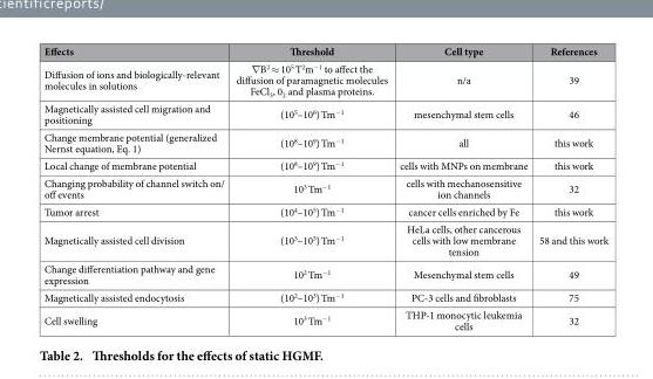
<table><thead><tr><td>Effects</td><td>Threshold</td><td>Cell type</td><td>References</td></tr></thead><tbody><tr><td>Diffusion of ions and biologically-relevant molecules in solutions</td><td>∇ B<sup>2</sup> ≈ 10<sup>5</sup> T<sup>2</sup>m<sup>−1</sup> to affect the diffusion of paramagnetic molecules FeCl<sub>3</sub>, 0<sub>2</sub> and plasma proteins.</td><td>n/a</td><td>39</td></tr><tr><td>Magnetically assisted cell migration and positioning</td><td>(10<sup>5</sup>–10<sup>6</sup>) Tm<sup>−1</sup></td><td>mesenchymal stem cells</td><td>46</td></tr><tr><td>Change membrane potential (generalized Nernst equation, Eq. 1)</td><td>(10<sup>8</sup>–10<sup>9</sup>) Tm<sup>−1</sup></td><td>all</td><td>this work</td></tr><tr><td>Local change of membrane potential</td><td>(10<sup>8</sup>–10<sup>9</sup>) Tm<sup>−1</sup></td><td>cells with MNPs on membrane</td><td>this work</td></tr><tr><td>Changing probability of channel switch on/ off events</td><td>10<sup>3</sup> Tm<sup>−1</sup></td><td>cells with mechanosensitive ion channels</td><td>32</td></tr><tr><td>Tumor arrest</td><td>(10<sup>4</sup>–10<sup>5</sup>) Tm<sup>−1</sup></td><td>cancer cells enriched by Fe</td><td>this work</td></tr><tr><td>Magnetically assisted cell division</td><td>(10<sup>3</sup>–10<sup>5</sup>) Tm<sup>−1</sup></td><td>HeLa cells, other cancerous cells with low membrane tension</td><td>58 and this work</td></tr><tr><td>Change differentiation pathway and gene expression</td><td>10<sup>2</sup> Tm<sup>−1</sup></td><td>Mesenchymal stem cells</td><td>49</td></tr><tr><td>Magnetically assisted endocytosis</td><td>(10<sup>2</sup>–10<sup>3</sup>) Tm<sup>−1</sup></td><td>PC-3 cells and fibroblasts</td><td>75</td></tr><tr><td>Cell swelling</td><td>10<sup>3</sup> Tm<sup>−1</sup></td><td>THP-1 monocytic leukemia cells</td><td>32</td></tr></tbody></table>